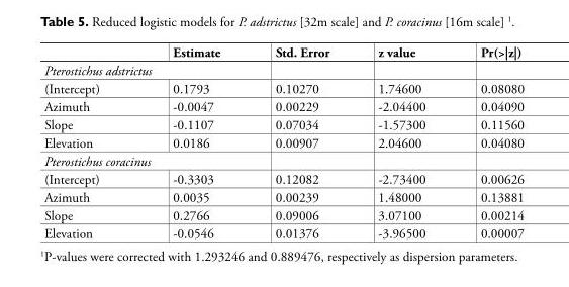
<table><thead><tr><td></td><td>Estimate</td><td>Std. Error</td><td>z value</td><td>Pr(&gt;|z|)</td></tr></thead><tbody><tr><td colspan="5">Pterostichus adstrictus</td></tr><tr><td>(Intercept)</td><td>0.1793</td><td>0.10270</td><td>1.74600</td><td>0.08080</td></tr><tr><td>Azimuth</td><td>-0.0047</td><td>0.00229</td><td>-2.04400</td><td>0.04090</td></tr><tr><td>Slope</td><td>-0.1107</td><td>0.07034</td><td>-1.57300</td><td>0.11560</td></tr><tr><td>Elevation</td><td>0.0186</td><td>0.00907</td><td>2.04600</td><td>0.04080</td></tr><tr><td colspan="5">Pterostichus coracinus</td></tr><tr><td>(Intercept)</td><td>-0.3303</td><td>0.12082</td><td>-2.73400</td><td>0.00626</td></tr><tr><td>Azimuth</td><td>0.0035</td><td>0.00239</td><td>1.48000</td><td>0.13881</td></tr><tr><td>Slope</td><td>0.2766</td><td>0.09006</td><td>3.07100</td><td>0.00214</td></tr><tr><td>Elevation</td><td>-0.0546</td><td>0.01376</td><td>-3.96500</td><td>0.00007</td></tr></tbody></table>